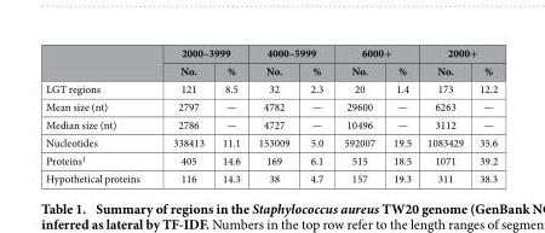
<table><thead><tr><td rowspan="2"></td><td colspan="2">2000–3999</td><td colspan="2">4000–5999</td><td colspan="2">6000+</td><td colspan="2">2000+</td></tr><tr><td>No.</td><td>%</td><td>No.</td><td>%</td><td>No.</td><td>%</td><td>No.</td><td>%</td></tr></thead><tbody><tr><td>LGT regions</td><td>121</td><td>8.5</td><td>32</td><td>2.3</td><td>20</td><td>1.4</td><td>173</td><td>12.2</td></tr><tr><td>Mean size (nt)</td><td>2797</td><td>—</td><td>4782</td><td>—</td><td>29600</td><td>—</td><td>6263</td><td>—</td></tr><tr><td>Median size (nt)</td><td>2786</td><td>—</td><td>4727</td><td>—</td><td>10496</td><td>—</td><td>3112</td><td>—</td></tr><tr><td>Nucleotides</td><td>338413</td><td>11.1</td><td>153009</td><td>5.0</td><td>592007</td><td>19.5</td><td>1083429</td><td>35.6</td></tr><tr><td>Proteins<sup>1</sup></td><td>405</td><td>14.6</td><td>169</td><td>6.1</td><td>515</td><td>18.5</td><td>1071</td><td>39.2</td></tr><tr><td>Hypothetical proteins</td><td>116</td><td>14.3</td><td>38</td><td>4.7</td><td>157</td><td>19.3</td><td>311</td><td>38.3</td></tr></tbody></table>